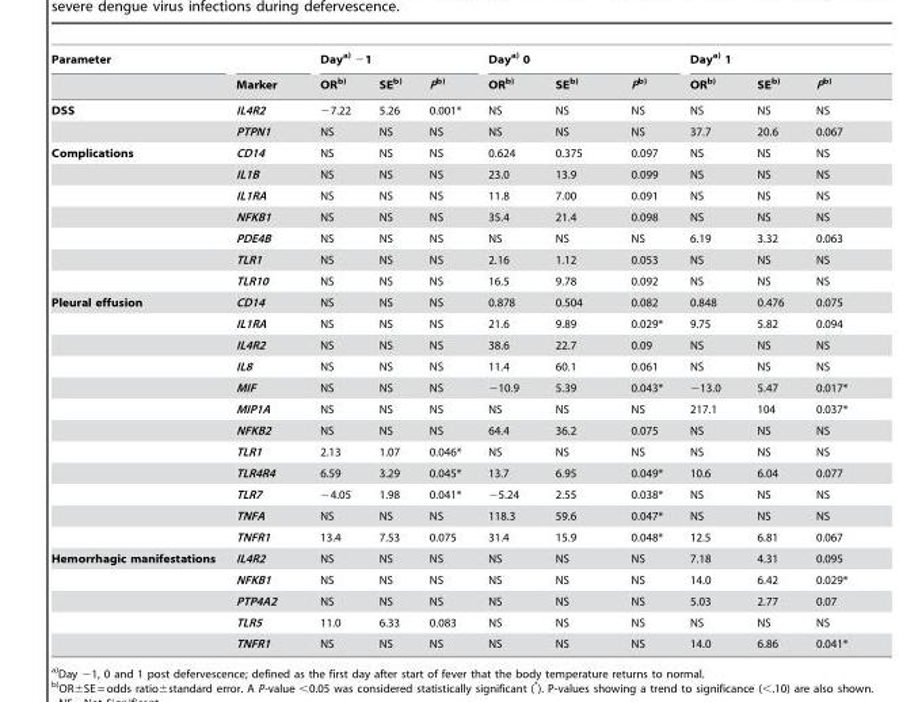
<table><thead><tr><td rowspan="2">Parameter</td><td rowspan="2">Marker</td><td colspan="3">Daya) −1</td><td colspan="3">Daya) 0</td><td colspan="3">Daya) 1</td></tr><tr><td>ORb)</td><td>SEb)</td><td>Pb)</td><td>ORb)</td><td>SEb)</td><td>Pb)</td><td>ORb)</td><td>SEb)</td><td>Pb)</td></tr></thead><tbody><tr><td rowspan="2">DSS</td><td>IL4R2</td><td>−7.22</td><td>5.26</td><td>0.001*</td><td>NS</td><td>NS</td><td>NS</td><td>NS</td><td>NS</td><td>NS</td></tr><tr><td>PTPN1</td><td>NS</td><td>NS</td><td>NS</td><td>NS</td><td>NS</td><td>NS</td><td>37.7</td><td>20.6</td><td>0.067</td></tr><tr><td rowspan="7">Complications</td><td>CD14</td><td>NS</td><td>NS</td><td>NS</td><td>0.624</td><td>0.375</td><td>0.097</td><td>NS</td><td>NS</td><td>NS</td></tr><tr><td>IL1B</td><td>NS</td><td>NS</td><td>NS</td><td>23.0</td><td>13.9</td><td>0.099</td><td>NS</td><td>NS</td><td>NS</td></tr><tr><td>IL1RA</td><td>NS</td><td>NS</td><td>NS</td><td>11.8</td><td>7.00</td><td>0.091</td><td>NS</td><td>NS</td><td>NS</td></tr><tr><td>NFKB1</td><td>NS</td><td>NS</td><td>NS</td><td>35.4</td><td>21.4</td><td>0.098</td><td>NS</td><td>NS</td><td>NS</td></tr><tr><td>PDE4B</td><td>NS</td><td>NS</td><td>NS</td><td>NS</td><td>NS</td><td>NS</td><td>6.19</td><td>3.32</td><td>0.063</td></tr><tr><td>TLR1</td><td>NS</td><td>NS</td><td>NS</td><td>2.16</td><td>1.12</td><td>0.053</td><td>NS</td><td>NS</td><td>NS</td></tr><tr><td>TLR10</td><td>NS</td><td>NS</td><td>NS</td><td>16.5</td><td>9.78</td><td>0.092</td><td>NS</td><td>NS</td><td>NS</td></tr><tr><td rowspan="12">Pleural effusion</td><td>CD14</td><td>NS</td><td>NS</td><td>NS</td><td>0.878</td><td>0.504</td><td>0.082</td><td>0.848</td><td>0.476</td><td>0.075</td></tr><tr><td>IL1RA</td><td>NS</td><td>NS</td><td>NS</td><td>21.6</td><td>9.89</td><td>0.029*</td><td>9.75</td><td>5.82</td><td>0.094</td></tr><tr><td>IL4R2</td><td>NS</td><td>NS</td><td>NS</td><td>38.6</td><td>22.7</td><td>0.09</td><td>NS</td><td>NS</td><td>NS</td></tr><tr><td>IL8</td><td>NS</td><td>NS</td><td>NS</td><td>11.4</td><td>60.1</td><td>0.061</td><td>NS</td><td>NS</td><td>NS</td></tr><tr><td>MIF</td><td>NS</td><td>NS</td><td>NS</td><td>−10.9</td><td>5.39</td><td>0.043*</td><td>−13.0</td><td>5.47</td><td>0.017*</td></tr><tr><td>MIP1A</td><td>NS</td><td>NS</td><td>NS</td><td>NS</td><td>NS</td><td>NS</td><td>217.1</td><td>104</td><td>0.037*</td></tr><tr><td>NFKB2</td><td>NS</td><td>NS</td><td>NS</td><td>64.4</td><td>36.2</td><td>0.075</td><td>NS</td><td>NS</td><td>NS</td></tr><tr><td>TLR1</td><td>2.13</td><td>1.07</td><td>0.046*</td><td>NS</td><td>NS</td><td>NS</td><td>NS</td><td>NS</td><td>NS</td></tr><tr><td>TLR4R4</td><td>6.59</td><td>3.29</td><td>0.045*</td><td>13.7</td><td>6.95</td><td>0.049*</td><td>10.6</td><td>6.04</td><td>0.077</td></tr><tr><td>TLR7</td><td>−4.05</td><td>1.98</td><td>0.041*</td><td>−5.24</td><td>2.55</td><td>0.038*</td><td>NS</td><td>NS</td><td>NS</td></tr><tr><td>TNFA</td><td>NS</td><td>NS</td><td>NS</td><td>118.3</td><td>59.6</td><td>0.047*</td><td>NS</td><td>NS</td><td>NS</td></tr><tr><td>TNFR1</td><td>13.4</td><td>7.53</td><td>0.075</td><td>31.4</td><td>15.9</td><td>0.048*</td><td>12.5</td><td>6.81</td><td>0.067</td></tr><tr><td rowspan="5">Hemorrhagic manifestations</td><td>IL4R2</td><td>NS</td><td>NS</td><td>NS</td><td>NS</td><td>NS</td><td>NS</td><td>7.18</td><td>4.31</td><td>0.095</td></tr><tr><td>NFKB1</td><td>NS</td><td>NS</td><td>NS</td><td>NS</td><td>NS</td><td>NS</td><td>14.0</td><td>6.42</td><td>0.029*</td></tr><tr><td>PTP4A2</td><td>NS</td><td>NS</td><td>NS</td><td>NS</td><td>NS</td><td>NS</td><td>5.03</td><td>2.77</td><td>0.07</td></tr><tr><td>TLR5</td><td>11.0</td><td>6.33</td><td>0.083</td><td>NS</td><td>NS</td><td>NS</td><td>NS</td><td>NS</td><td>NS</td></tr><tr><td>TNFR1</td><td>NS</td><td>NS</td><td>NS</td><td>NS</td><td>NS</td><td>NS</td><td>14.0</td><td>6.86</td><td>0.041*</td></tr></tbody></table>